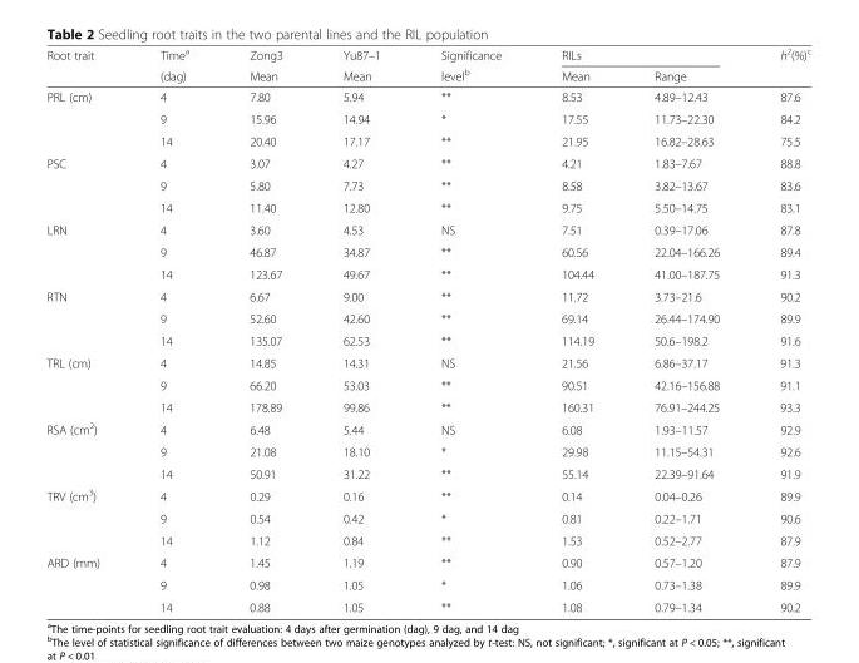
<table><thead><tr><td rowspan="2">Root trait</td><td rowspan="2">Time<sup>a</sup> (dag)</td><td rowspan="2">Zong3 Mean</td><td rowspan="2">Yu87–1 Mean</td><td rowspan="2">Significance level<sup>b</sup></td><td colspan="2">RILs</td><td rowspan="2">h<sup>2</sup>(%)<sup>c</sup></td></tr><tr><td>Mean</td><td>Range</td></tr></thead><tbody><tr><td rowspan="3">PRL (cm)</td><td>4</td><td>7.80</td><td>5.94</td><td>**</td><td>8.53</td><td>4.89–12.43</td><td>87.6</td></tr><tr><td>9</td><td>15.96</td><td>14.94</td><td>*</td><td>17.55</td><td>11.73–22.30</td><td>84.2</td></tr><tr><td>14</td><td>20.40</td><td>17.17</td><td>**</td><td>21.95</td><td>16.82–28.63</td><td>75.5</td></tr><tr><td rowspan="3">PSC</td><td>4</td><td>3.07</td><td>4.27</td><td>**</td><td>4.21</td><td>1.83–7.67</td><td>88.8</td></tr><tr><td>9</td><td>5.80</td><td>7.73</td><td>**</td><td>8.58</td><td>3.82–13.67</td><td>83.6</td></tr><tr><td>14</td><td>11.40</td><td>12.80</td><td>**</td><td>9.75</td><td>5.50–14.75</td><td>83.1</td></tr><tr><td rowspan="3">LRN</td><td>4</td><td>3.60</td><td>4.53</td><td>NS</td><td>7.51</td><td>0.39–17.06</td><td>87.8</td></tr><tr><td>9</td><td>46.87</td><td>34.87</td><td>**</td><td>60.56</td><td>22.04–166.26</td><td>89.4</td></tr><tr><td>14</td><td>123.67</td><td>49.67</td><td>**</td><td>104.44</td><td>41.00–187.75</td><td>91.3</td></tr><tr><td rowspan="3">RTN</td><td>4</td><td>6.67</td><td>9.00</td><td>**</td><td>11.72</td><td>3.73–21.6</td><td>90.2</td></tr><tr><td>9</td><td>52.60</td><td>42.60</td><td>**</td><td>69.14</td><td>26.44–174.90</td><td>89.9</td></tr><tr><td>14</td><td>135.07</td><td>62.53</td><td>**</td><td>114.19</td><td>50.6–198.2</td><td>91.6</td></tr><tr><td rowspan="3">TRL (cm)</td><td>4</td><td>14.85</td><td>14.31</td><td>NS</td><td>21.56</td><td>6.86–37.17</td><td>91.3</td></tr><tr><td>9</td><td>66.20</td><td>53.03</td><td>**</td><td>90.51</td><td>42.16–156.88</td><td>91.1</td></tr><tr><td>14</td><td>178.89</td><td>99.86</td><td>**</td><td>160.31</td><td>76.91–244.25</td><td>93.3</td></tr><tr><td rowspan="3">RSA (cm<sup>2</sup>)</td><td>4</td><td>6.48</td><td>5.44</td><td>NS</td><td>6.08</td><td>1.93–11.57</td><td>92.9</td></tr><tr><td>9</td><td>21.08</td><td>18.10</td><td>*</td><td>29.98</td><td>11.15–54.31</td><td>92.6</td></tr><tr><td>14</td><td>50.91</td><td>31.22</td><td>**</td><td>55.14</td><td>22.39–91.64</td><td>91.9</td></tr><tr><td rowspan="3">TRV (cm<sup>3</sup>)</td><td>4</td><td>0.29</td><td>0.16</td><td>**</td><td>0.14</td><td>0.04–0.26</td><td>89.9</td></tr><tr><td>9</td><td>0.54</td><td>0.42</td><td>*</td><td>0.81</td><td>0.22–1.71</td><td>90.6</td></tr><tr><td>14</td><td>1.12</td><td>0.84</td><td>**</td><td>1.53</td><td>0.52–2.77</td><td>87.9</td></tr><tr><td rowspan="3">ARD (mm)</td><td>4</td><td>1.45</td><td>1.19</td><td>**</td><td>0.90</td><td>0.57–1.20</td><td>87.9</td></tr><tr><td>9</td><td>0.98</td><td>1.05</td><td>*</td><td>1.06</td><td>0.73–1.38</td><td>89.9</td></tr><tr><td>14</td><td>0.88</td><td>1.05</td><td>**</td><td>1.08</td><td>0.79–1.34</td><td>90.2</td></tr></tbody></table>